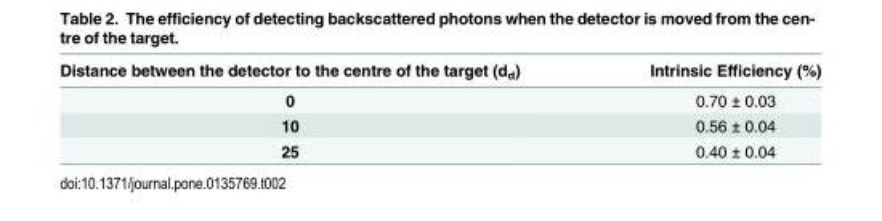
<table><thead><tr><td>Distance between the detector to the centre of the target (d<sub>d</sub>)</td><td>Intrinsic Efficiency (%)</td></tr></thead><tbody><tr><td>0</td><td>0.70 ± 0.03</td></tr><tr><td>10</td><td>0.56 ± 0.04</td></tr><tr><td>25</td><td>0.40 ± 0.04</td></tr></tbody></table>